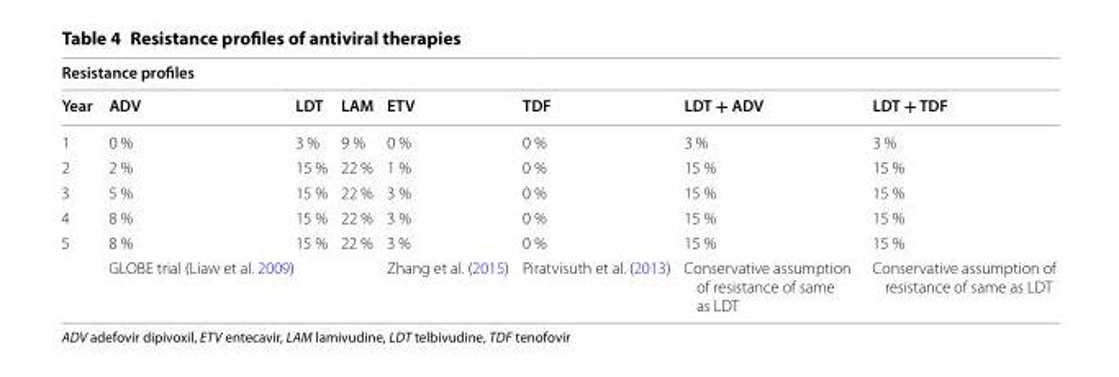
<table><thead><tr><td colspan="8">Resistance profiles</td></tr><tr><td>Year</td><td>ADV</td><td>LDT</td><td>LAM</td><td>ETV</td><td>TDF</td><td>LDT + ADV</td><td>LDT + TDF</td></tr></thead><tbody><tr><td>1</td><td>0 %</td><td>3 %</td><td>9 %</td><td>0 %</td><td>0 %</td><td>3 %</td><td>3 %</td></tr><tr><td>2</td><td>2 %</td><td>15 %</td><td>22 %</td><td>1 %</td><td>0 %</td><td>15 %</td><td>15 %</td></tr><tr><td>3</td><td>5 %</td><td>15 %</td><td>22 %</td><td>3 %</td><td>0 %</td><td>15 %</td><td>15 %</td></tr><tr><td>4</td><td>8 %</td><td>15 %</td><td>22 %</td><td>3 %</td><td>0 %</td><td>15 %</td><td>15 %</td></tr><tr><td rowspan="2">5</td><td>8 %</td><td>15 %</td><td>22 %</td><td>3 %</td><td>0 %</td><td>15 %</td><td>15 %</td></tr><tr><td colspan="3">GLOBE trial (Liaw et al. 2009)</td><td>Zhang et al. (2015)</td><td>Piratvisuth et al. (2013)</td><td>Conservative assumption of resistance of same as LDT</td><td>Conservative assumption of resistance of same as LDT</td></tr></tbody></table>